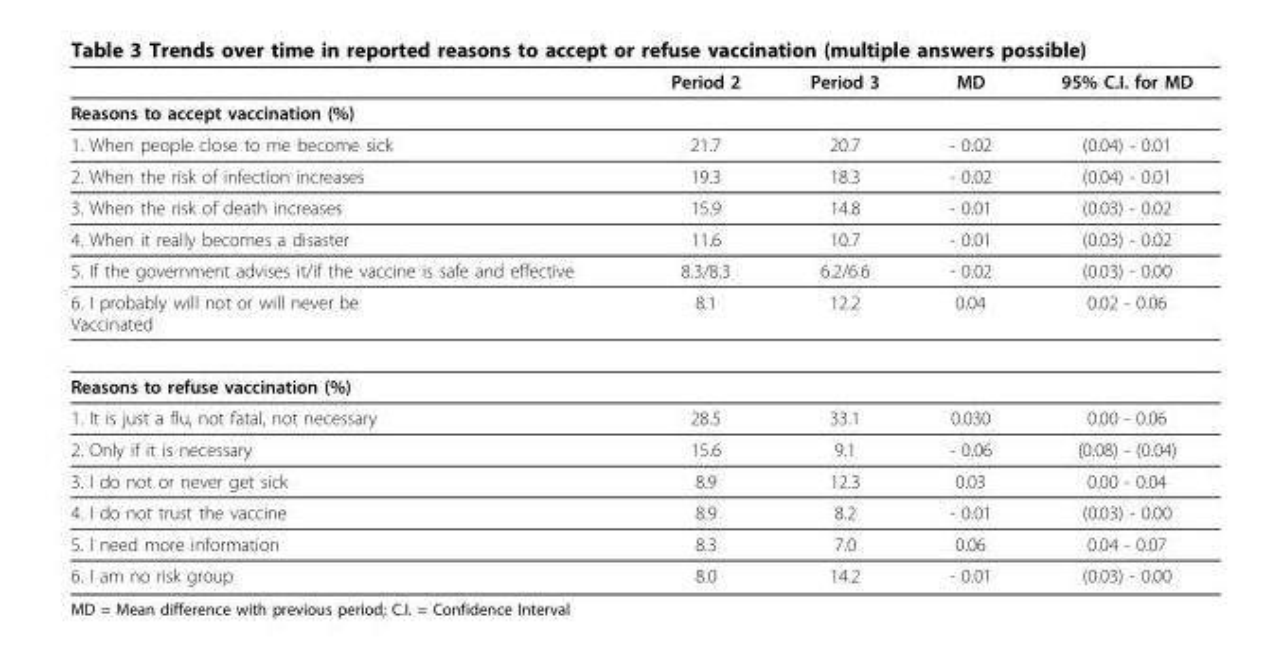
<table><thead><tr><td></td><td>Period 2</td><td>Period 3</td><td>MD</td><td>95% C.I. for MD</td></tr></thead><tbody><tr><td colspan="5">Reasons to accept vaccination (%)</td></tr><tr><td>1. When people close to me become sick</td><td>21.7</td><td>20.7</td><td>- 0.02</td><td>(0.04) - 0.01</td></tr><tr><td>2. When the risk of infection increases</td><td>19.3</td><td>18.3</td><td>- 0.02</td><td>(0.04) - 0.01</td></tr><tr><td>3. When the risk of death increases</td><td>15.9</td><td>14.8</td><td>- 0.01</td><td>(0.03) - 0.02</td></tr><tr><td>4. When it really becomes a disaster</td><td>11.6</td><td>10.7</td><td>- 0.01</td><td>(0.03) - 0.02</td></tr><tr><td>5. If the government advises it/if the vaccine is safe and effective</td><td>8.3/8.3</td><td>6.2/6.6</td><td>- 0.02</td><td>(0.03) - 0.00</td></tr><tr><td>6. I probably will not or will never be Vaccinated</td><td>8.1</td><td>12.2</td><td>0.04</td><td>0.02 - 0.06</td></tr><tr><td colspan="5">Reasons to refuse vaccination (%)</td></tr><tr><td>1. It is just a flu, not fatal, not necessary</td><td>28.5</td><td>33.1</td><td>0.030</td><td>0.00 - 0.06</td></tr><tr><td>2. Only if it is necessary</td><td>15.6</td><td>9.1</td><td>- 0.06</td><td>(0.08) - (0.04)</td></tr><tr><td>3. I do not or never get sick</td><td>8.9</td><td>12.3</td><td>0.03</td><td>0.00 - 0.04</td></tr><tr><td>4. I do not trust the vaccine</td><td>8.9</td><td>8.2</td><td>- 0.01</td><td>(0.03) - 0.00</td></tr><tr><td>5. I need more information</td><td>8.3</td><td>7.0</td><td>0.06</td><td>0.04 - 0.07</td></tr><tr><td>6. I am no risk group</td><td>8.0</td><td>14.2</td><td>- 0.01</td><td>(0.03) - 0.00</td></tr></tbody></table>